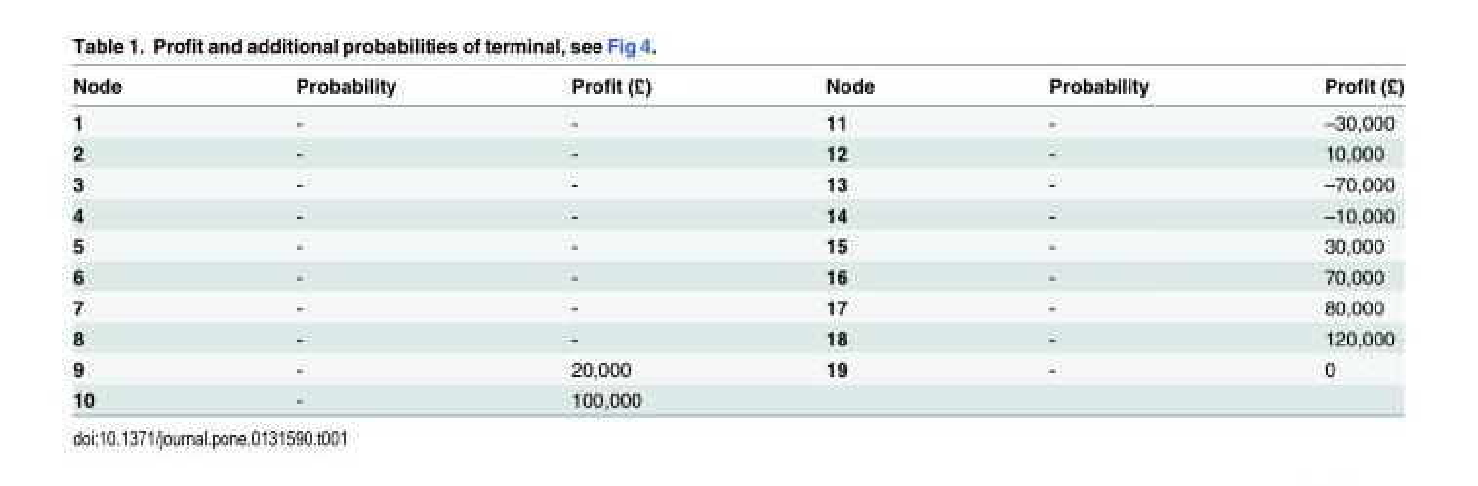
<table><thead><tr><td>Node</td><td>Probability</td><td>Profit (£)</td><td>Node</td><td>Probability</td><td>Profit (£)</td></tr></thead><tbody><tr><td>1</td><td>-</td><td>-</td><td>11</td><td>-</td><td>–30,000</td></tr><tr><td>2</td><td>-</td><td>-</td><td>12</td><td>-</td><td>10,000</td></tr><tr><td>3</td><td>-</td><td>-</td><td>13</td><td>-</td><td>–70,000</td></tr><tr><td>4</td><td>-</td><td>-</td><td>14</td><td>-</td><td>–10,000</td></tr><tr><td>5</td><td>-</td><td>-</td><td>15</td><td>-</td><td>30,000</td></tr><tr><td>6</td><td>-</td><td>-</td><td>16</td><td>-</td><td>70,000</td></tr><tr><td>7</td><td>-</td><td>-</td><td>17</td><td>-</td><td>80,000</td></tr><tr><td>8</td><td>-</td><td>-</td><td>18</td><td>-</td><td>120,000</td></tr><tr><td>9</td><td>-</td><td>20,000</td><td>19</td><td>-</td><td>0</td></tr><tr><td>10</td><td>-</td><td>100,000</td><td></td><td></td><td></td></tr></tbody></table>